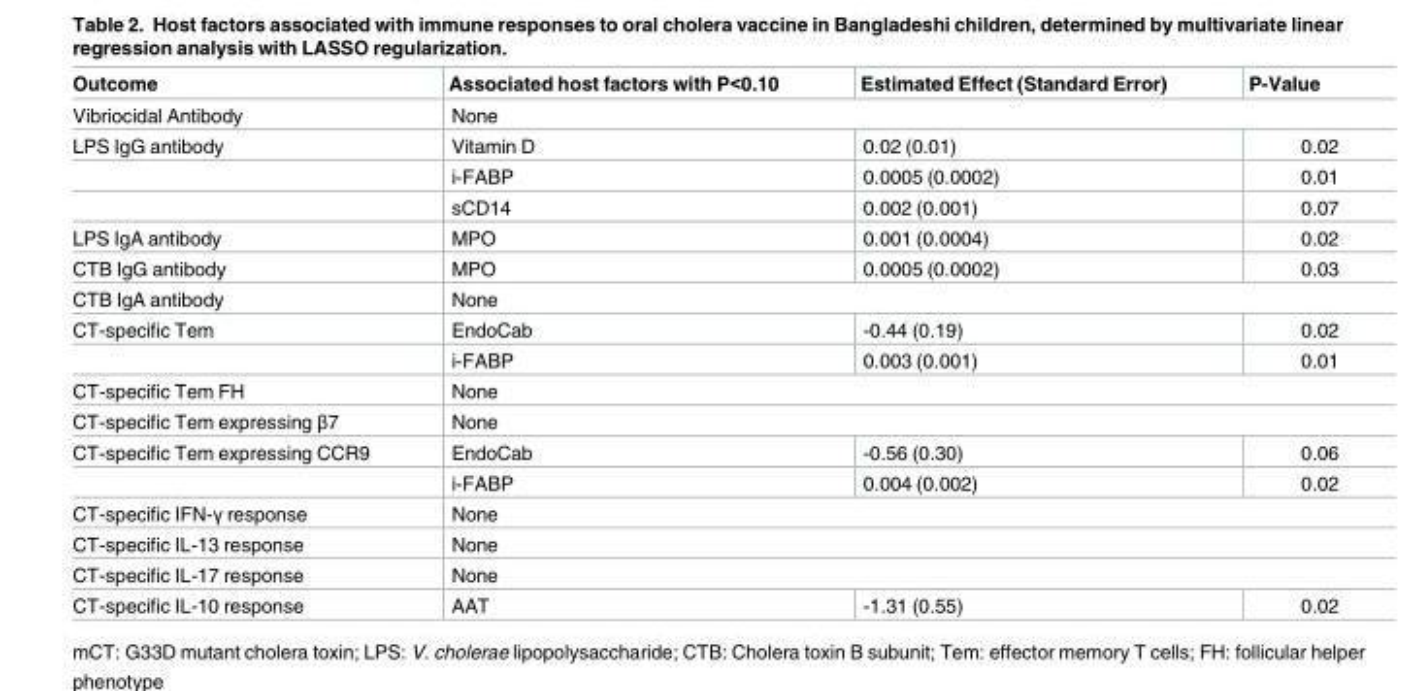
<table><thead><tr><td>Outcome</td><td>Associated host factors with P&lt;0.10</td><td>Estimated Effect (Standard Error)</td><td>P-Value</td></tr></thead><tbody><tr><td>Vibriocidal Antibody</td><td colspan="3">None</td></tr><tr><td rowspan="3">LPS IgG antibody</td><td>Vitamin D</td><td>0.02 (0.01)</td><td>0.02</td></tr><tr><td>i-FABP</td><td>0.0005 (0.0002)</td><td>0.01</td></tr><tr><td>sCD14</td><td>0.002 (0.001)</td><td>0.07</td></tr><tr><td>LPS IgA antibody</td><td>MPO</td><td>0.001 (0.0004)</td><td>0.02</td></tr><tr><td>CTB IgG antibody</td><td>MPO</td><td>0.0005 (0.0002)</td><td>0.03</td></tr><tr><td>CTB IgA antibody</td><td colspan="3">None</td></tr><tr><td rowspan="2">CT-specific Tem</td><td>EndoCab</td><td>-0.44 (0.19)</td><td>0.02</td></tr><tr><td>i-FABP</td><td>0.003 (0.001)</td><td>0.01</td></tr><tr><td>CT-specific Tem FH</td><td colspan="3">None</td></tr><tr><td>CT-specific Tem expressing β7</td><td colspan="3">None</td></tr><tr><td rowspan="2">CT-specific Tem expressing CCR9</td><td>EndoCab</td><td>-0.56 (0.30)</td><td>0.06</td></tr><tr><td>i-FABP</td><td>0.004 (0.002)</td><td>0.02</td></tr><tr><td>CT-specific IFN-γ response</td><td colspan="3">None</td></tr><tr><td>CT-specific IL-13 response</td><td colspan="3">None</td></tr><tr><td>CT-specific IL-17 response</td><td colspan="3">None</td></tr><tr><td>CT-specific IL-10 response</td><td>AAT</td><td>-1.31 (0.55)</td><td>0.02</td></tr></tbody></table>